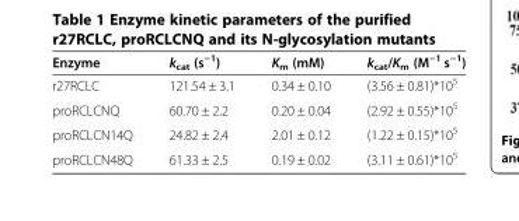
<table><thead><tr><td>Enzyme</td><td>k<sub>cat</sub> (s<sup>−1</sup>)</td><td>K<sub>m</sub> (mM)</td><td>k<sub>cat</sub>/K<sub>m</sub> (M<sup>−1</sup> s<sup>−1</sup>)</td></tr></thead><tbody><tr><td>r27RCLC</td><td>121.54 ± 3.1</td><td>0.34 ± 0.10</td><td>(3.56 ± 0.81)*10<sup>5</sup></td></tr><tr><td>proRCLCNQ</td><td>60.70 ± 2.2</td><td>0.20 ± 0.04</td><td>(2.92 ± 0.55)*10<sup>5</sup></td></tr><tr><td>proRCLCN14Q</td><td>24.82 ± 2.4</td><td>2.01 ± 0.12</td><td>(1.22 ± 0.15)*10<sup>5</sup></td></tr><tr><td>proRCLCN48Q</td><td>61.33 ± 2.5</td><td>0.19 ± 0.02</td><td>(3.11 ± 0.61)*10<sup>5</sup></td></tr></tbody></table>